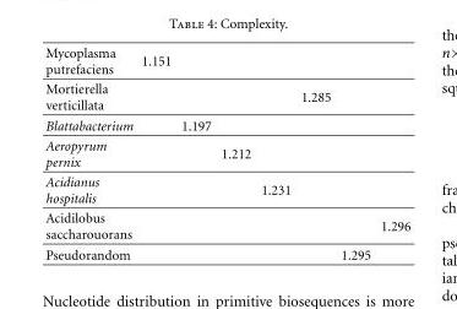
<table><tbody><tr><td>Mycoplasma putrefaciens</td><td>1.151</td><td></td><td></td><td></td><td></td><td></td><td></td></tr><tr><td>Mortierella verticillata</td><td></td><td></td><td></td><td></td><td>1.285</td><td></td><td></td></tr><tr><td>Blattabacterium</td><td></td><td>1.197</td><td></td><td></td><td></td><td></td><td></td></tr><tr><td>Aeropyrum pernix</td><td></td><td></td><td>1.212</td><td></td><td></td><td></td><td></td></tr><tr><td>Acidianus hospitalis</td><td></td><td></td><td></td><td>1.231</td><td></td><td></td><td></td></tr><tr><td>Acidilobus saccharouorans</td><td></td><td></td><td></td><td></td><td></td><td></td><td>1.296</td></tr><tr><td>Pseudorandom</td><td></td><td></td><td></td><td></td><td></td><td>1.295</td><td></td></tr></tbody></table>